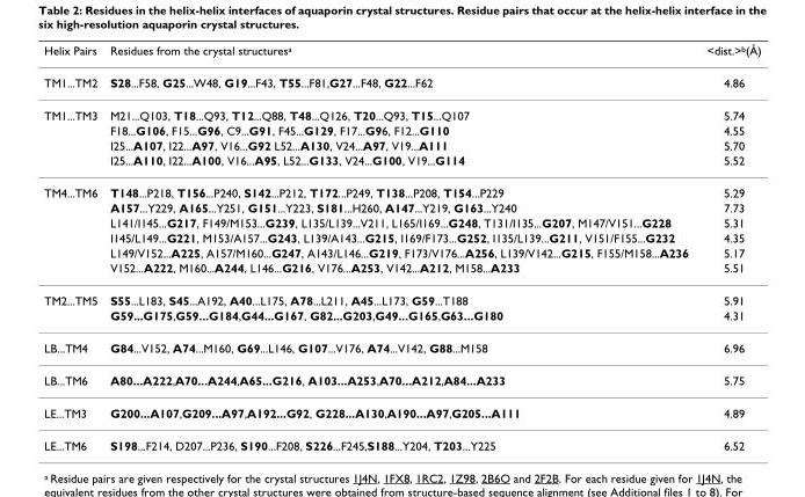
<table><thead><tr><td>Helix Pairs</td><td>Residues from the crystal structuresa</td><td>&lt;dist.&gt;b(Å)</td></tr></thead><tbody><tr><td>TM1...TM2</td><td>S28...F58, G25...W48, G19...F43, T55...F81,G27...F48, G22...F62</td><td>4.86</td></tr><tr><td rowspan="4">TM1...TM3</td><td>M21...Q103, T18...Q93, T12...Q88, T48...Q126, T20...Q93, T15...Q107</td><td>5.74</td></tr><tr><td>F18...G106, F15...G96, C9...G91, F45...G129, F17...G96, F12...G110</td><td>4.55</td></tr><tr><td>I25...A107, I22...A97, V16...G92 L52...A130, V24...A97, V19...A111</td><td>5.70</td></tr><tr><td>I25...A110, I22...A100, V16...A95, L52...G133, V24...G100, V19...G114</td><td>5.52</td></tr><tr><td rowspan="6">TM4...TM6</td><td>T148...P218, T156...P240, S142...P212, T172...P249, T138...P208, T154...P229</td><td>5.29</td></tr><tr><td>A157...Y229, A165...Y251, G151...Y223, S181...H260, A147...Y219, G163...Y240</td><td>7.73</td></tr><tr><td>L141/I145...G217, F149/M153...G239, L135/L139...V211, L165/I169...G248, T131/I135...G207, M147/V151...G228</td><td>5.31</td></tr><tr><td>I145/L149...G221, M153/A157...G243, L139/A143...G215, I169/F173...G252, I135/L139...G211, V151/F155...G232</td><td>4.35</td></tr><tr><td>L149/V152...A225, A157/M160...G247, A143/L146...G219, F173/V176...A256, L139/V142...G215, F155/M158...A236</td><td>5.17</td></tr><tr><td>V152...A222, M160...A244, L146...G216, V176...A253, V142...A212, M158...A233</td><td>5.51</td></tr><tr><td rowspan="2">TM2...TM5</td><td>S55...L183, S45...A192, A40...L175, A78...L211, A45...L173, G59...T188</td><td>5.91</td></tr><tr><td>G59...G175,G59...G184,G44...G167, G82...G203,G49...G165,G63...G180</td><td>4.31</td></tr><tr><td>LB...TM4</td><td>G84...V152, A74...M160, G69...L146, G107...V176, A74...V142, G88...M158</td><td>6.96</td></tr><tr><td>LB...TM6</td><td>A80...A222,A70...A244,A65...G216, A103...A253,A70...A212,A84...A233</td><td>5.75</td></tr><tr><td>LE...TM3</td><td>G200...A107,G209...A97,A192...G92, G228...A130,A190...A97,G205...A111</td><td>4.89</td></tr><tr><td>LE...TM6</td><td>S198...F214, D207...P236, S190...F208, S226...F245,S188...Y204, T203...Y225</td><td>6.52</td></tr></tbody></table>